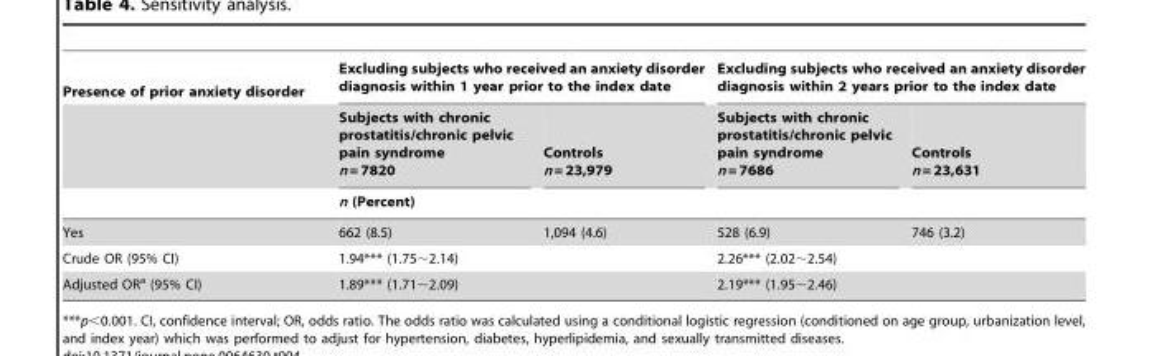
<table><thead><tr><td rowspan="3">Presence of prior anxiety disorder</td><td colspan="2">Excluding subjects who received an anxiety disorder diagnosis within 1 year prior to the index date</td><td colspan="2">Excluding subjects who received an anxiety disorder diagnosis within 2 years prior to the index date</td></tr><tr><td>Subjects with chronic prostatitis/chronic pelvic pain syndrome n = 7820</td><td>Controls n = 23,979</td><td>Subjects with chronic prostatitis/chronic pelvic pain syndrome n = 7686</td><td>Controls n = 23,631</td></tr><tr><td colspan="4">n (Percent)</td></tr></thead><tbody><tr><td>Yes</td><td>662 (8.5)</td><td>1,094 (4.6)</td><td>528 (6.9)</td><td>746 (3.2)</td></tr><tr><td>Crude OR (95% CI)</td><td colspan="2">1.94*** (1.75∼2.14)</td><td colspan="2">2.26*** (2.02∼2.54)</td></tr><tr><td>Adjusted OR<sup>a</sup> (95% CI)</td><td colspan="2">1.89*** (1.71∼2.09)</td><td colspan="2">2.19*** (1.95∼2.46)</td></tr></tbody></table>